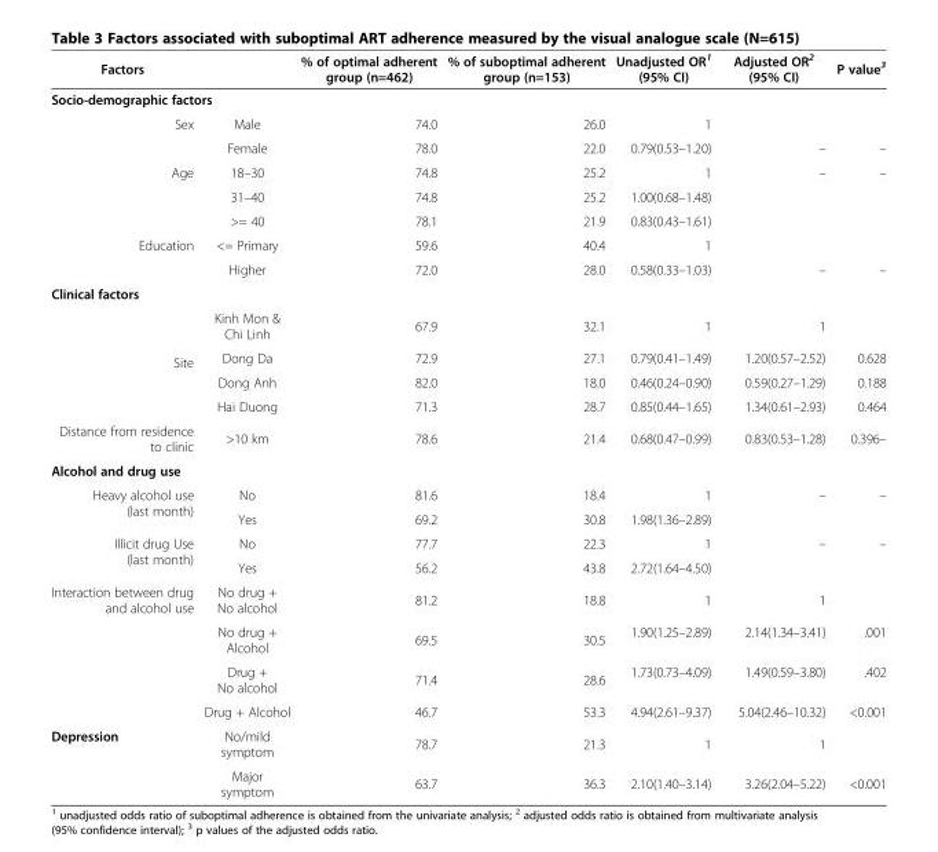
<table><thead><tr><td>Factors</td><td></td><td>% of optimal adherent group (n=462)</td><td>% of suboptimal adherent group (n=153)</td><td>Unadjusted OR<sup>1</sup> (95% CI)</td><td>Adjusted OR<sup>2</sup> (95% CI)</td><td>P value<sup>3</sup></td></tr></thead><tbody><tr><td colspan="7">Socio-demographic factors</td></tr><tr><td rowspan="2">Sex</td><td>Male</td><td>74.0</td><td>26.0</td><td>1</td><td></td><td></td></tr><tr><td>Female</td><td>78.0</td><td>22.0</td><td>0.79(0.53–1.20)</td><td>–</td><td>–</td></tr><tr><td rowspan="3">Age</td><td>18–30</td><td>74.8</td><td>25.2</td><td>1</td><td>–</td><td>–</td></tr><tr><td>31–40</td><td>74.8</td><td>25.2</td><td>1.00(0.68–1.48)</td><td></td><td></td></tr><tr><td>&gt;= 40</td><td>78.1</td><td>21.9</td><td>0.83(0.43–1.61)</td><td></td><td></td></tr><tr><td rowspan="2">Education</td><td>&lt;= Primary</td><td>59.6</td><td>40.4</td><td>1</td><td></td><td></td></tr><tr><td>Higher</td><td>72.0</td><td>28.0</td><td>0.58(0.33–1.03)</td><td>–</td><td>–</td></tr><tr><td colspan="7">Clinical factors</td></tr><tr><td rowspan="4">Site</td><td>Kinh Mon &amp; Chi Linh</td><td>67.9</td><td>32.1</td><td>1</td><td>1</td><td></td></tr><tr><td>Dong Da</td><td>72.9</td><td>27.1</td><td>0.79(0.41–1.49)</td><td>1.20(0.57–2.52)</td><td>0.628</td></tr><tr><td>Dong Anh</td><td>82.0</td><td>18.0</td><td>0.46(0.24–0.90)</td><td>0.59(0.27–1.29)</td><td>0.188</td></tr><tr><td>Hai Duong</td><td>71.3</td><td>28.7</td><td>0.85(0.44–1.65)</td><td>1.34(0.61–2.93)</td><td>0.464</td></tr><tr><td>Distance from residence to clinic</td><td>&gt;10 km</td><td>78.6</td><td>21.4</td><td>0.68(0.47–0.99)</td><td>0.83(0.53–1.28)</td><td>0.396–</td></tr><tr><td colspan="7">Alcohol and drug use</td></tr><tr><td rowspan="2">Heavy alcohol use (last month)</td><td>No</td><td>81.6</td><td>18.4</td><td>1</td><td>–</td><td>–</td></tr><tr><td>Yes</td><td>69.2</td><td>30.8</td><td>1.98(1.36–2.89)</td><td></td><td></td></tr><tr><td rowspan="2">Illicit drug Use (last month)</td><td>No</td><td>77.7</td><td>22.3</td><td>1</td><td>–</td><td>–</td></tr><tr><td>Yes</td><td>56.2</td><td>43.8</td><td>2.72(1.64–4.50)</td><td></td><td></td></tr><tr><td rowspan="4">Interaction between drug and alcohol use</td><td>No drug + No alcohol</td><td>81.2</td><td>18.8</td><td>1</td><td>1</td><td></td></tr><tr><td>No drug + Alcohol</td><td>69.5</td><td>30.5</td><td>1.90(1.25–2.89)</td><td>2.14(1.34–3.41)</td><td>.001</td></tr><tr><td>Drug + No alcohol</td><td>71.4</td><td>28.6</td><td>1.73(0.73–4.09)</td><td>1.49(0.59–3.80)</td><td>.402</td></tr><tr><td>Drug + Alcohol</td><td>46.7</td><td>53.3</td><td>4.94(2.61–9.37)</td><td>5.04(2.46–10.32)</td><td>&lt;0.001</td></tr><tr><td rowspan="2">Depression</td><td>No/mild symptom</td><td>78.7</td><td>21.3</td><td>1</td><td>1</td><td></td></tr><tr><td>Major symptom</td><td>63.7</td><td>36.3</td><td>2.10(1.40–3.14)</td><td>3.26(2.04–5.22)</td><td>&lt;0.001</td></tr></tbody></table>